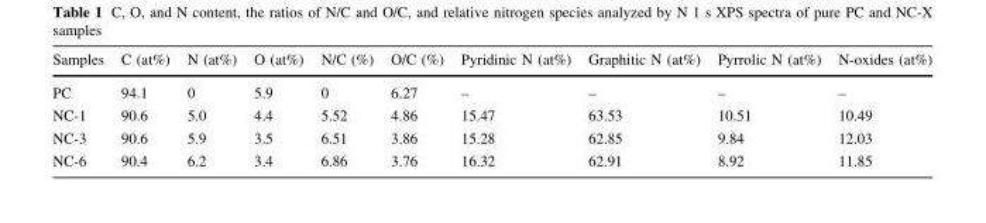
<table><thead><tr><td>Samples</td><td>C (at%)</td><td>N (at%)</td><td>O (at%)</td><td>N/C (%)</td><td>O/C (%)</td><td>Pyridinic N (at%)</td><td>Graphitic N (at%)</td><td>Pyrrolic N (at%)</td><td>N-oxides (at%)</td></tr></thead><tbody><tr><td>PC</td><td>94.1</td><td>0</td><td>5.9</td><td>0</td><td>6.27</td><td>–</td><td>–</td><td>–</td><td>–</td></tr><tr><td>NC-1</td><td>90.6</td><td>5.0</td><td>4.4</td><td>5.52</td><td>4.86</td><td>15.47</td><td>63.53</td><td>10.51</td><td>10.49</td></tr><tr><td>NC-3</td><td>90.6</td><td>5.9</td><td>3.5</td><td>6.51</td><td>3.86</td><td>15.28</td><td>62.85</td><td>9.84</td><td>12.03</td></tr><tr><td>NC-6</td><td>90.4</td><td>6.2</td><td>3.4</td><td>6.86</td><td>3.76</td><td>16.32</td><td>62.91</td><td>8.92</td><td>11.85</td></tr></tbody></table>